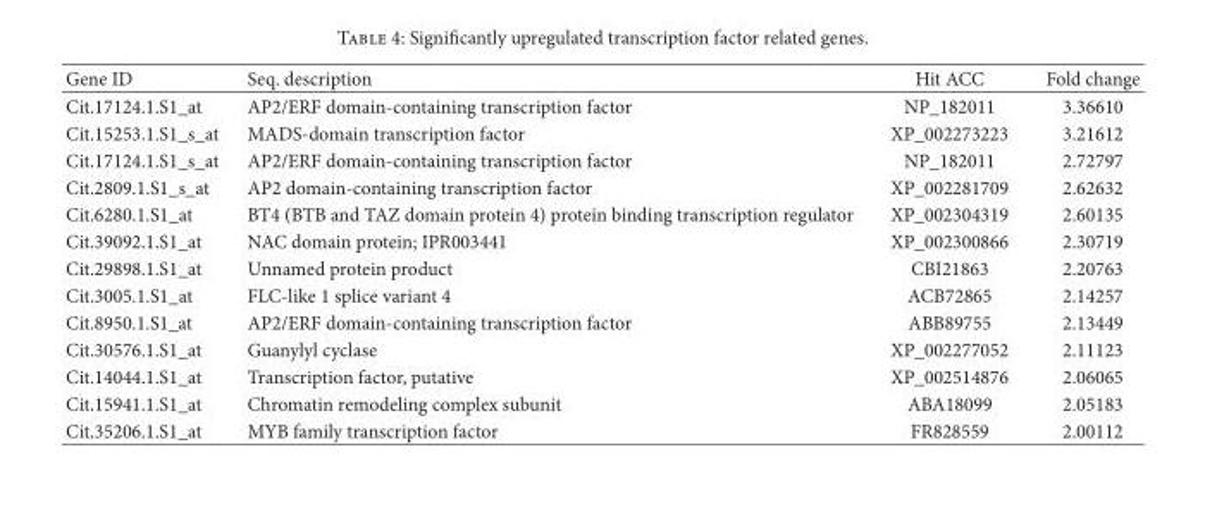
<table><thead><tr><td>Gene ID</td><td>Seq. description</td><td>Hit ACC</td><td>Fold change</td></tr></thead><tbody><tr><td>Cit.17124.1.S1_at</td><td>AP2/ERF domain-containing transcription factor</td><td>NP_182011</td><td>3.36610</td></tr><tr><td>Cit.15253.1.S1_s_at</td><td>MADS-domain transcription factor</td><td>XP_002273223</td><td>3.21612</td></tr><tr><td>Cit.17124.1.S1_s_at</td><td>AP2/ERF domain-containing transcription factor</td><td>NP_182011</td><td>2.72797</td></tr><tr><td>Cit.2809.1.S1_s_at</td><td>AP2 domain-containing transcription factor</td><td>XP_002281709</td><td>2.62632</td></tr><tr><td>Cit.6280.1.S1_at</td><td>BT4 (BTB and TAZ domain protein 4) protein binding transcription regulator</td><td>XP_002304319</td><td>2.60135</td></tr><tr><td>Cit.39092.1.S1_at</td><td>NAC domain protein; IPR003441</td><td>XP_002300866</td><td>2.30719</td></tr><tr><td>Cit.29898.1.S1_at</td><td>Unnamed protein product</td><td>CBI21863</td><td>2.20763</td></tr><tr><td>Cit.3005.1.S1_at</td><td>FLC-like 1 splice variant 4</td><td>ACB72865</td><td>2.14257</td></tr><tr><td>Cit.8950.1.S1_at</td><td>AP2/ERF domain-containing transcription factor</td><td>ABB89755</td><td>2.13449</td></tr><tr><td>Cit.30576.1.S1_at</td><td>Guanylyl cyclase</td><td>XP_002277052</td><td>2.11123</td></tr><tr><td>Cit.14044.1.S1_at</td><td>Transcription factor, putative</td><td>XP_002514876</td><td>2.06065</td></tr><tr><td>Cit.15941.1.S1_at</td><td>Chromatin remodeling complex subunit</td><td>ABA18099</td><td>2.05183</td></tr><tr><td>Cit.35206.1.S1_at</td><td>MYB family transcription factor</td><td>FR828559</td><td>2.00112</td></tr></tbody></table>